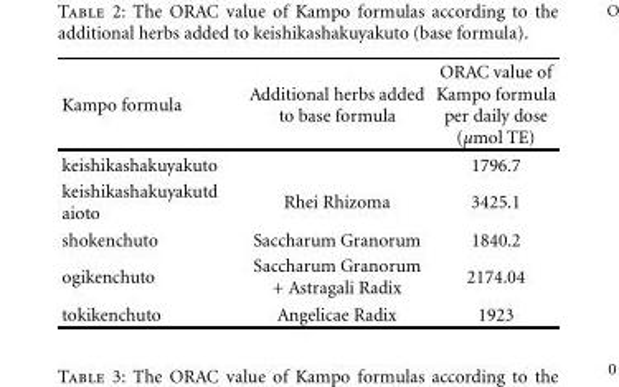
<table><thead><tr><td>Kampo formula</td><td>Additional herbs added to base formula</td><td>ORAC value of Kampo formula per daily dose (μmol TE)</td></tr></thead><tbody><tr><td>keishikashakuyakuto</td><td></td><td>1796.7</td></tr><tr><td>keishikashakuyakutd aioto</td><td>Rhei Rhizoma</td><td>3425.1</td></tr><tr><td>shokenchuto</td><td>Saccharum Granorum</td><td>1840.2</td></tr><tr><td>ogikenchuto</td><td>Saccharum Granorum + Astragali Radix</td><td>2174.04</td></tr><tr><td>tokikenchuto</td><td>Angelicae Radix</td><td>1923</td></tr></tbody></table>